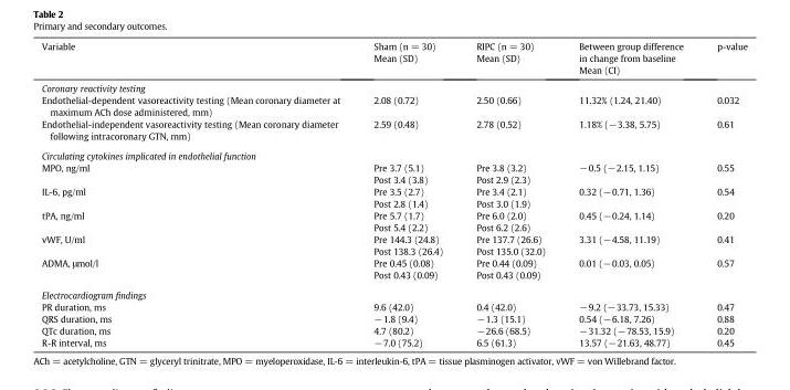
<table><thead><tr><td>Variable</td><td>Sham (n = 30) Mean (SD)</td><td>RIPC (n = 30) Mean (SD)</td><td>Between group difference in change from baseline Mean (CI)</td><td>p-value</td></tr></thead><tbody><tr><td colspan="5">Coronary reactivity testing</td></tr><tr><td>Endothelial-dependent vasoreactivity testing (Mean coronary diameter at maximum ACh dose administered, mm)</td><td>2.08 (0.72)</td><td>2.50 (0.66)</td><td>11.32% (1.24, 21.40)</td><td>0.032</td></tr><tr><td>Endothelial-independent vasoreactivity testing (Mean coronary diameter following intracoronary GTN, mm)</td><td>2.59 (0.48)</td><td>2.78 (0.52)</td><td>1.18% (−3.38, 5.75)</td><td>0.61</td></tr><tr><td colspan="5">Circulating cytokines implicated in endothelial function</td></tr><tr><td>MPO, ng/ml</td><td>Pre 3.7 (5.1) Post 3.4 (3.8)</td><td>Pre 3.8 (3.2) Post 2.9 (2.3)</td><td>−0.5 (−2.15, 1.15)</td><td>0.55</td></tr><tr><td>IL-6, pg/ml</td><td>Pre 3.5 (2.7) Post 2.8 (1.4)</td><td>Pre 3.4 (2.1) Post 3.0 (1.9)</td><td>0.32 (−0.71, 1.36)</td><td>0.54</td></tr><tr><td>tPA, ng/ml</td><td>Pre 5.7 (1.7) Post 5.4 (2.2)</td><td>Pre 6.0 (2.0) Post 6.2 (2.6)</td><td>0.45 (−0.24, 1.14)</td><td>0.20</td></tr><tr><td>vWF, U/ml</td><td>Pre 144.3 (24.8) Post 138.3 (26.4)</td><td>Pre 137.7 (26.6) Post 135.0 (32.0)</td><td>3.31 (−4.58, 11.19)</td><td>0.41</td></tr><tr><td>ADMA, μmol/l</td><td>Pre 0.45 (0.08) Post 0.43 (0.09)</td><td>Pre 0.44 (0.09) Post 0.43 (0.09)</td><td>0.01 (−0.03, 0.05)</td><td>0.57</td></tr><tr><td colspan="5">Electrocardiogram findings</td></tr><tr><td>PR duration, ms</td><td>9.6 (42.0)</td><td>0.4 (42.0)</td><td>−9.2 (−33.73, 15.33)</td><td>0.47</td></tr><tr><td>QRS duration, ms</td><td>−1.8 (9.4)</td><td>−1.3 (15.1)</td><td>0.54 (−6.18, 7.26)</td><td>0.88</td></tr><tr><td>QTc duration, ms</td><td>4.7 (80.2)</td><td>−26.6 (68.5)</td><td>−31.32 (−78.53, 15.9)</td><td>0.20</td></tr><tr><td>R-R interval, ms</td><td>−7.0 (75.2)</td><td>6.5 (61.3)</td><td>13.57 (−21.63, 48.77)</td><td>0.45</td></tr></tbody></table>